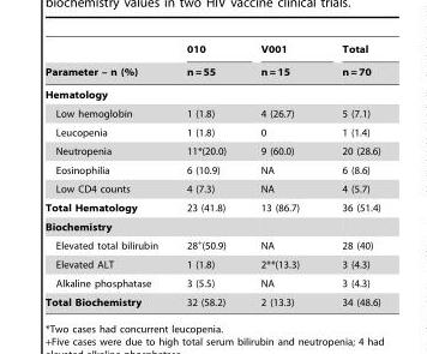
<table><thead><tr><td rowspan="2">Parameter – n (%)</td><td rowspan="2">010 n = 55</td><td rowspan="2">V001 n = 15</td><td rowspan="2">Total n = 70</td></tr><tr></tr></thead><tbody><tr><td colspan="4">Hematology</td></tr><tr><td>Low hemoglobin</td><td>1 (1.8)</td><td>4 (26.7)</td><td>5 (7.1)</td></tr><tr><td>Leucopenia</td><td>1 (1.8)</td><td>0</td><td>1 (1.4)</td></tr><tr><td>Neutropenia</td><td>11*(20.0)</td><td>9 (60.0)</td><td>20 (28.6)</td></tr><tr><td>Eosinophilia</td><td>6 (10.9)</td><td>NA</td><td>6 (8.6)</td></tr><tr><td>Low CD4 counts</td><td>4 (7.3)</td><td>NA</td><td>4 (5.7)</td></tr><tr><td>Total Hematology</td><td>23 (41.8)</td><td>13 (86.7)</td><td>36 (51.4)</td></tr><tr><td colspan="4">Biochemistry</td></tr><tr><td>Elevated total bilirubin</td><td>28+(50.9)</td><td>NA</td><td>28 (40)</td></tr><tr><td>Elevated ALT</td><td>1 (1.8)</td><td>2**(13.3)</td><td>3 (4.3)</td></tr><tr><td>Alkaline phosphatase</td><td>3 (5.5)</td><td>NA</td><td>3 (4.3)</td></tr><tr><td>Total Biochemistry</td><td>32 (58.2)</td><td>2 (13.3)</td><td>34 (48.6)</td></tr></tbody></table>